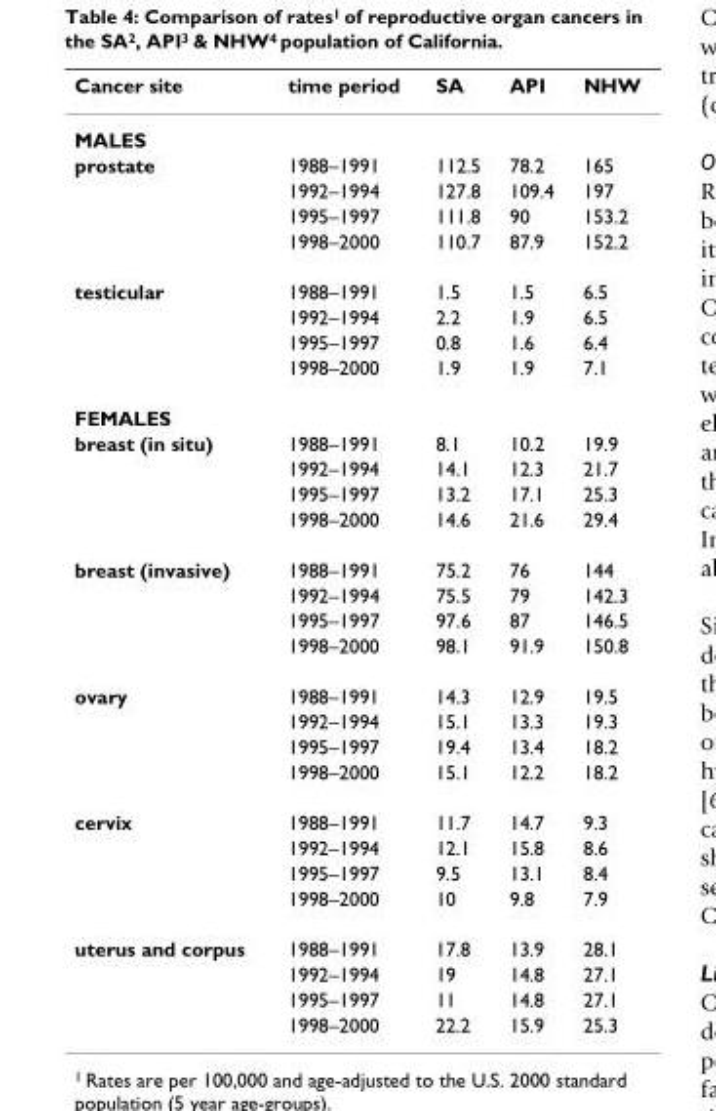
<table><thead><tr><td>Cancer site</td><td>time period</td><td>SA</td><td>API</td><td>NHW</td></tr></thead><tbody><tr><td colspan="5">MALES</td></tr><tr><td rowspan="4">prostate</td><td>1988–1991</td><td>112.5</td><td>78.2</td><td>165</td></tr><tr><td>1992–1994</td><td>127.8</td><td>109.4</td><td>197</td></tr><tr><td>1995–1997</td><td>111.8</td><td>90</td><td>153.2</td></tr><tr><td>1998–2000</td><td>110.7</td><td>87.9</td><td>152.2</td></tr><tr><td rowspan="4">testicular</td><td>1988–1991</td><td>1.5</td><td>1.5</td><td>6.5</td></tr><tr><td>1992–1994</td><td>2.2</td><td>1.9</td><td>6.5</td></tr><tr><td>1995–1997</td><td>0.8</td><td>1.6</td><td>6.4</td></tr><tr><td>1998–2000</td><td>1.9</td><td>1.9</td><td>7.1</td></tr><tr><td colspan="5">FEMALES</td></tr><tr><td rowspan="4">breast (in situ)</td><td>1988–1991</td><td>8.1</td><td>10.2</td><td>19.9</td></tr><tr><td>1992–1994</td><td>14.1</td><td>12.3</td><td>21.7</td></tr><tr><td>1995–1997</td><td>13.2</td><td>17.1</td><td>25.3</td></tr><tr><td>1998–2000</td><td>14.6</td><td>21.6</td><td>29.4</td></tr><tr><td rowspan="4">breast (invasive)</td><td>1988–1991</td><td>75.2</td><td>76</td><td>144</td></tr><tr><td>1992–1994</td><td>75.5</td><td>79</td><td>142.3</td></tr><tr><td>1995–1997</td><td>97.6</td><td>87</td><td>146.5</td></tr><tr><td>1998–2000</td><td>98.1</td><td>91.9</td><td>150.8</td></tr><tr><td rowspan="4">ovary</td><td>1988–1991</td><td>14.3</td><td>12.9</td><td>19.5</td></tr><tr><td>1992–1994</td><td>15.1</td><td>13.3</td><td>19.3</td></tr><tr><td>1995–1997</td><td>19.4</td><td>13.4</td><td>18.2</td></tr><tr><td>1998–2000</td><td>15.1</td><td>12.2</td><td>18.2</td></tr><tr><td rowspan="4">cervix</td><td>1988–1991</td><td>11.7</td><td>14.7</td><td>9.3</td></tr><tr><td>1992–1994</td><td>12.1</td><td>15.8</td><td>8.6</td></tr><tr><td>1995–1997</td><td>9.5</td><td>13.1</td><td>8.4</td></tr><tr><td>1998–2000</td><td>10</td><td>9.8</td><td>7.9</td></tr><tr><td rowspan="4">uterus and corpus</td><td>1988–1991</td><td>17.8</td><td>13.9</td><td>28.1</td></tr><tr><td>1992–1994</td><td>19</td><td>14.8</td><td>27.1</td></tr><tr><td>1995–1997</td><td>11</td><td>14.8</td><td>27.1</td></tr><tr><td>1998–2000</td><td>22.2</td><td>15.9</td><td>25.3</td></tr></tbody></table>